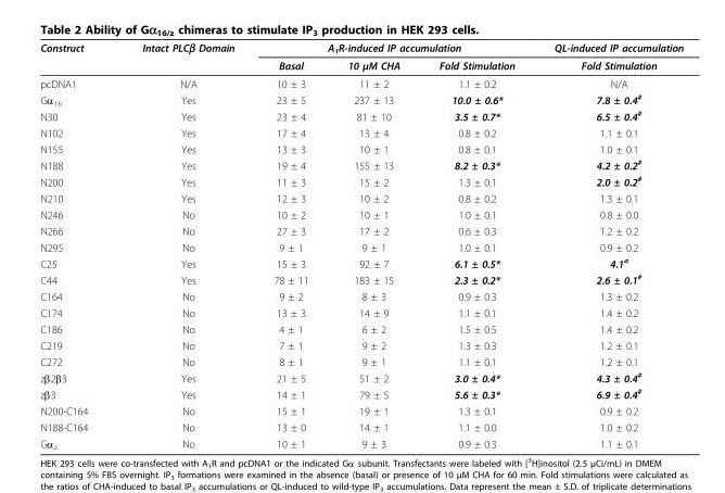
<table><thead><tr><td rowspan="2">Construct</td><td rowspan="2">Intact PLCβ Domain</td><td colspan="3">A<sub>1</sub>R-induced IP accumulation</td><td rowspan="2">QL-induced IP accumulation Fold Stimulation</td></tr><tr><td>Basal</td><td>10 μM CHA</td><td>Fold Stimulation</td></tr></thead><tbody><tr><td>pcDNA1</td><td>N/A</td><td>10 ± 3</td><td>11 ± 2</td><td>1.1 ± 0.2</td><td>N/A</td></tr><tr><td>Gα<sub>16</sub></td><td>Yes</td><td>23 ± 5</td><td>237 ± 13</td><td>10.0 ± 0.6*</td><td>7.8 ± 0.4<sup>#</sup></td></tr><tr><td>N30</td><td>Yes</td><td>23 ± 4</td><td>81 ± 10</td><td>3.5 ± 0.7*</td><td>6.5 ± 0.4<sup>#</sup></td></tr><tr><td>N102</td><td>Yes</td><td>17 ± 4</td><td>13 ± 4</td><td>0.8 ± 0.2</td><td>1.1 ± 0.1</td></tr><tr><td>N155</td><td>Yes</td><td>13 ± 3</td><td>10 ± 1</td><td>0.8 ± 0.1</td><td>1.0 ± 0.1</td></tr><tr><td>N188</td><td>Yes</td><td>19 ± 4</td><td>155 ± 13</td><td>8.2 ± 0.3*</td><td>4.2 ± 0.2<sup>#</sup></td></tr><tr><td>N200</td><td>Yes</td><td>11 ± 3</td><td>15 ± 2</td><td>1.3 ± 0.1</td><td>2.0 ± 0.2<sup>#</sup></td></tr><tr><td>N210</td><td>Yes</td><td>12 ± 3</td><td>10 ± 2</td><td>0.8 ± 0.2</td><td>1.3 ± 0.1</td></tr><tr><td>N246</td><td>No</td><td>10 ± 2</td><td>10 ± 1</td><td>1.0 ± 0.1</td><td>0.8 ± 0.0</td></tr><tr><td>N266</td><td>No</td><td>27 ± 3</td><td>17 ± 2</td><td>0.6 ± 0.3</td><td>1.2 ± 0.2</td></tr><tr><td>N295</td><td>No</td><td>9 ± 1</td><td>9 ± 1</td><td>1.0 ± 0.1</td><td>0.9 ± 0.2</td></tr><tr><td>C25</td><td>Yes</td><td>15 ± 3</td><td>92 ± 7</td><td>6.1 ± 0.5*</td><td>4.1<sup>a</sup></td></tr><tr><td>C44</td><td>Yes</td><td>78 ± 11</td><td>183 ± 15</td><td>2.3 ± 0.2*</td><td>2.6 ± 0.1<sup>#</sup></td></tr><tr><td>C164</td><td>No</td><td>9 ± 2</td><td>8 ± 3</td><td>0.9 ± 0.3</td><td>1.3 ± 0.2</td></tr><tr><td>C174</td><td>No</td><td>13 ± 3</td><td>14 ± 9</td><td>1.1 ± 0.1</td><td>1.4 ± 0.2</td></tr><tr><td>C186</td><td>No</td><td>4 ± 1</td><td>6 ± 2</td><td>1.5 ± 0.5</td><td>1.4 ± 0.2</td></tr><tr><td>C219</td><td>No</td><td>7 ± 1</td><td>9 ± 2</td><td>1.3 ± 0.3</td><td>1.2 ± 0.1</td></tr><tr><td>C272</td><td>No</td><td>8 ± 1</td><td>9 ± 1</td><td>1.1 ± 0.1</td><td>1.2 ± 0.1</td></tr><tr><td>zβ2β3</td><td>Yes</td><td>21 ± 5</td><td>51 ± 2</td><td>3.0 ± 0.4*</td><td>4.3 ± 0.4<sup>#</sup></td></tr><tr><td>zβ3</td><td>Yes</td><td>14 ± 1</td><td>79 ± 5</td><td>5.6 ± 0.3*</td><td>6.9 ± 0.4<sup>#</sup></td></tr><tr><td>N200-C164</td><td>No</td><td>15 ± 1</td><td>19 ± 1</td><td>1.3 ± 0.1</td><td>0.9 ± 0.2</td></tr><tr><td>N188-C164</td><td>No</td><td>13 ± 0</td><td>14 ± 1</td><td>1.1 ± 0.0</td><td>1.0 ± 0.2</td></tr><tr><td>Gα<sub>z</sub></td><td>No</td><td>10 ± 1</td><td>9 ± 3</td><td>0.9 ± 0.3</td><td>1.1 ± 0.1</td></tr></tbody></table>